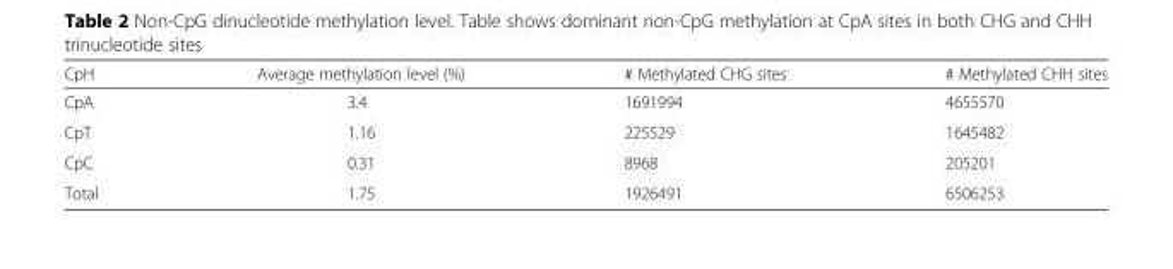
<table><thead><tr><td>CpH</td><td>Average methylation level (%)</td><td># Methylated CHG sites</td><td># Methylated CHH sites</td></tr></thead><tbody><tr><td>CpA</td><td>3.4</td><td>1691994</td><td>4655570</td></tr><tr><td>CpT</td><td>1.16</td><td>225529</td><td>1645482</td></tr><tr><td>CpC</td><td>0.31</td><td>8968</td><td>205201</td></tr><tr><td>Total</td><td>1.75</td><td>1926491</td><td>6506253</td></tr></tbody></table>